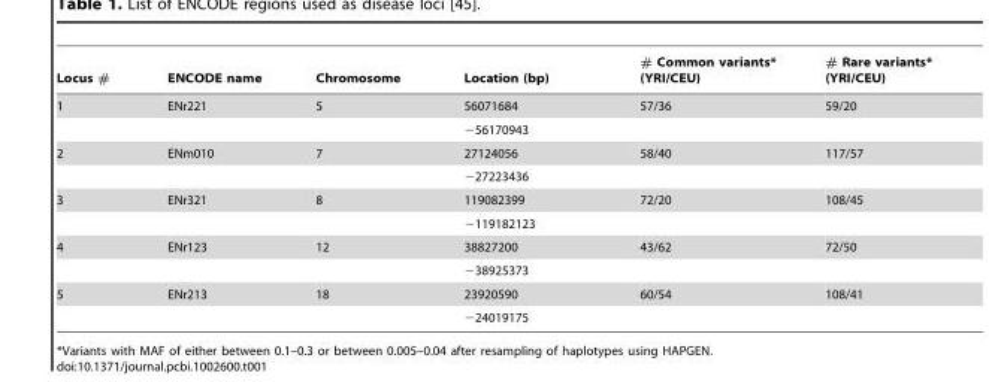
<table><thead><tr><td>Locus #</td><td>ENCODE name</td><td>Chromosome</td><td>Location (bp)</td><td># Common variants* (YRI/CEU)</td><td># Rare variants* (YRI/CEU)</td></tr></thead><tbody><tr><td rowspan="2">1</td><td>ENr221</td><td>5</td><td>56071684</td><td>57/36</td><td>59/20</td></tr><tr><td></td><td></td><td>−56170943</td><td></td><td></td></tr><tr><td rowspan="2">2</td><td>ENm010</td><td>7</td><td>27124056</td><td>58/40</td><td>117/57</td></tr><tr><td></td><td></td><td>−27223436</td><td></td><td></td></tr><tr><td rowspan="2">3</td><td>ENr321</td><td>8</td><td>119082399</td><td>72/20</td><td>108/45</td></tr><tr><td></td><td></td><td>−119182123</td><td></td><td></td></tr><tr><td rowspan="2">4</td><td>ENr123</td><td>12</td><td>38827200</td><td>43/62</td><td>72/50</td></tr><tr><td></td><td></td><td>−38925373</td><td></td><td></td></tr><tr><td rowspan="2">5</td><td>ENr213</td><td>18</td><td>23920590</td><td>60/54</td><td>108/41</td></tr><tr><td></td><td></td><td>−24019175</td><td></td><td></td></tr></tbody></table>